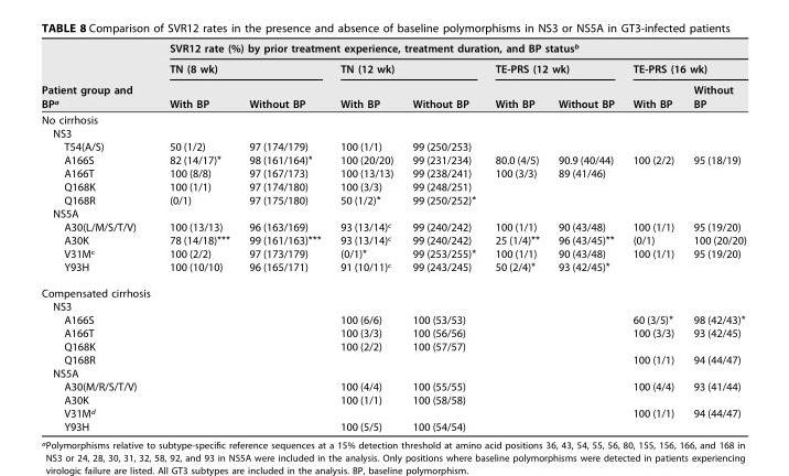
<table><thead><tr><td rowspan="3">Patient group and BP<sup>a</sup></td><td colspan="8">SVR12 rate (%) by prior treatment experience, treatment duration, and BP status<sup>b</sup></td></tr><tr><td colspan="2">TN (8 wk)</td><td colspan="2">TN (12 wk)</td><td colspan="2">TE-PRS (12 wk)</td><td colspan="2">TE-PRS (16 wk)</td></tr><tr><td>With BP</td><td>Without BP</td><td>With BP</td><td>Without BP</td><td>With BP</td><td>Without BP</td><td>With BP</td><td>Without BP</td></tr></thead><tbody><tr><td colspan="9">No cirrhosis</td></tr><tr><td colspan="9">NS3</td></tr><tr><td>T54(A/S)</td><td>50 (1/2)</td><td>97 (174/179)</td><td>100 (1/1)</td><td>99 (250/253)</td><td></td><td></td><td></td><td></td></tr><tr><td>A166S</td><td>82 (14/17)*</td><td>98 (161/164)*</td><td>100 (20/20)</td><td>99 (231/234)</td><td>80.0 (4/5)</td><td>90.9 (40/44)</td><td>100 (2/2)</td><td>95 (18/19)</td></tr><tr><td>A166T</td><td>100 (8/8)</td><td>97 (167/173)</td><td>100 (13/13)</td><td>99 (238/241)</td><td>100 (3/3)</td><td>89 (41/46)</td><td></td><td></td></tr><tr><td>Q168K</td><td>100 (1/1)</td><td>97 (174/180)</td><td>100 (3/3)</td><td>99 (248/251)</td><td></td><td></td><td></td><td></td></tr><tr><td>Q168R</td><td>(0/1)</td><td>97 (175/180)</td><td>50 (1/2)*</td><td>99 (250/252)*</td><td></td><td></td><td></td><td></td></tr><tr><td colspan="9">NS5A</td></tr><tr><td>A30(L/M/S/T/V)</td><td>100 (13/13)</td><td>96 (163/169)</td><td>93 (13/14)<sup>c</sup></td><td>99 (240/242)</td><td>100 (1/1)</td><td>90 (43/48)</td><td>100 (1/1)</td><td>95 (19/20)</td></tr><tr><td>A30K</td><td>78 (14/18)***</td><td>99 (161/163)***</td><td>93 (13/14)<sup>c</sup></td><td>99 (240/242)</td><td>25 (1/4)**</td><td>96 (43/45)**</td><td>(0/1)</td><td>100 (20/20)</td></tr><tr><td>V31M<sup>c</sup></td><td>100 (2/2)</td><td>97 (173/179)</td><td>(0/1)*</td><td>99 (253/255)*</td><td>100 (1/1)</td><td>90 (43/48)</td><td>100 (1/1)</td><td>95 (19/20)</td></tr><tr><td>Y93H</td><td>100 (10/10)</td><td>96 (165/171)</td><td>91 (10/11)<sup>c</sup></td><td>99 (243/245)</td><td>50 (2/4)*</td><td>93 (42/45)*</td><td></td><td></td></tr><tr><td colspan="9">Compensated cirrhosis</td></tr><tr><td colspan="9">NS3</td></tr><tr><td>A166S</td><td></td><td></td><td>100 (6/6)</td><td>100 (53/53)</td><td></td><td></td><td>60 (3/5)*</td><td>98 (42/43)*</td></tr><tr><td>A166T</td><td></td><td></td><td>100 (3/3)</td><td>100 (56/56)</td><td></td><td></td><td>100 (3/3)</td><td>93 (42/45)</td></tr><tr><td>Q168K</td><td></td><td></td><td>100 (2/2)</td><td>100 (57/57)</td><td></td><td></td><td></td><td></td></tr><tr><td>Q168R</td><td></td><td></td><td></td><td></td><td></td><td></td><td>100 (1/1)</td><td>94 (44/47)</td></tr><tr><td colspan="9">NS5A</td></tr><tr><td>A30(M/R/S/T/V)</td><td></td><td></td><td>100 (4/4)</td><td>100 (55/55)</td><td></td><td></td><td>100 (4/4)</td><td>93 (41/44)</td></tr><tr><td>A30K</td><td></td><td></td><td>100 (1/1)</td><td>100 (58/58)</td><td></td><td></td><td></td><td></td></tr><tr><td>V31M<sup>d</sup></td><td></td><td></td><td></td><td></td><td></td><td></td><td>100 (1/1)</td><td>94 (44/47)</td></tr><tr><td>Y93H</td><td></td><td></td><td>100 (5/5)</td><td>100 (54/54)</td><td></td><td></td><td></td><td></td></tr></tbody></table>